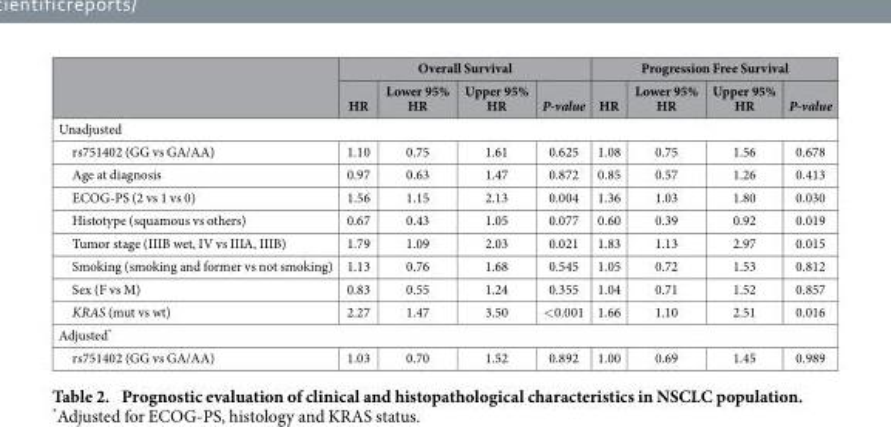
<table><thead><tr><td rowspan="2"></td><td colspan="4">Overall Survival</td><td colspan="4">Progression Free Survival</td></tr><tr><td>HR</td><td>Lower 95% HR</td><td>Upper 95% HR</td><td>P-value</td><td>HR</td><td>Lower 95% HR</td><td>Upper 95% HR</td><td>P-value</td></tr></thead><tbody><tr><td colspan="9">Unadjusted</td></tr><tr><td>rs751402 (GG vs GA/AA)</td><td>1.10</td><td>0.75</td><td>1.61</td><td>0.625</td><td>1.08</td><td>0.75</td><td>1.56</td><td>0.678</td></tr><tr><td>Age at diagnosis</td><td>0.97</td><td>0.63</td><td>1.47</td><td>0.872</td><td>0.85</td><td>0.57</td><td>1.26</td><td>0.413</td></tr><tr><td>ECOG-PS (2 vs 1 vs 0)</td><td>1.56</td><td>1.15</td><td>2.13</td><td>0.004</td><td>1.36</td><td>1.03</td><td>1.80</td><td>0.030</td></tr><tr><td>Histotype (squamous vs others)</td><td>0.67</td><td>0.43</td><td>1.05</td><td>0.077</td><td>0.60</td><td>0.39</td><td>0.92</td><td>0.019</td></tr><tr><td>Tumor stage (IIIB wet, IV vs IIIA, IIIB)</td><td>1.79</td><td>1.09</td><td>2.03</td><td>0.021</td><td>1.83</td><td>1.13</td><td>2.97</td><td>0.015</td></tr><tr><td>Smoking (smoking and former vs not smoking)</td><td>1.13</td><td>0.76</td><td>1.68</td><td>0.545</td><td>1.05</td><td>0.72</td><td>1.53</td><td>0.812</td></tr><tr><td>Sex (F vs M)</td><td>0.83</td><td>0.55</td><td>1.24</td><td>0.355</td><td>1.04</td><td>0.71</td><td>1.52</td><td>0.857</td></tr><tr><td>KRAS (mut vs wt)</td><td>2.27</td><td>1.47</td><td>3.50</td><td>&lt; 0.001</td><td>1.66</td><td>1.10</td><td>2.51</td><td>0.016</td></tr><tr><td colspan="9">Adjusted*</td></tr><tr><td>rs751402 (GG vs GA/AA)</td><td>1.03</td><td>0.70</td><td>1.52</td><td>0.892</td><td>1.00</td><td>0.69</td><td>1.45</td><td>0.989</td></tr></tbody></table>